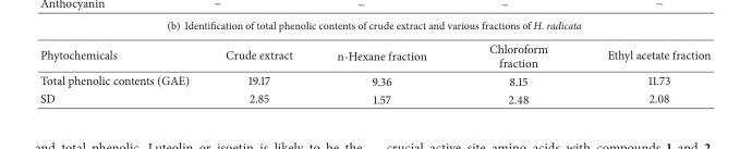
<table><thead><tr><td>Phytochemicals</td><td>Crude extract</td><td>n-Hexane fraction</td><td>Chloroform fraction</td><td>Ethyl acetate fraction</td></tr></thead><tbody><tr><td>Total phenolic contents (GAE)</td><td>19.17</td><td>9.36</td><td>8.15</td><td>11.73</td></tr><tr><td>SD</td><td>2.85</td><td>1.57</td><td>2.48</td><td>2.08</td></tr></tbody></table>